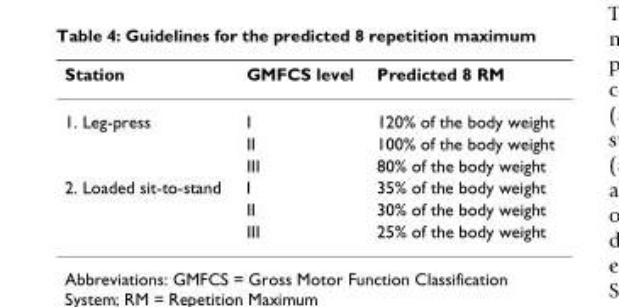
<table><thead><tr><td>Station</td><td>GMFCS level</td><td>Predicted 8 RM</td></tr></thead><tbody><tr><td rowspan="3">1. Leg-press</td><td>I</td><td>120% of the body weight</td></tr><tr><td>II</td><td>100% of the body weight</td></tr><tr><td>III</td><td>80% of the body weight</td></tr><tr><td rowspan="3">2. Loaded sit-to-stand</td><td>I</td><td>35% of the body weight</td></tr><tr><td>II</td><td>30% of the body weight</td></tr><tr><td>III</td><td>25% of the body weight</td></tr></tbody></table>